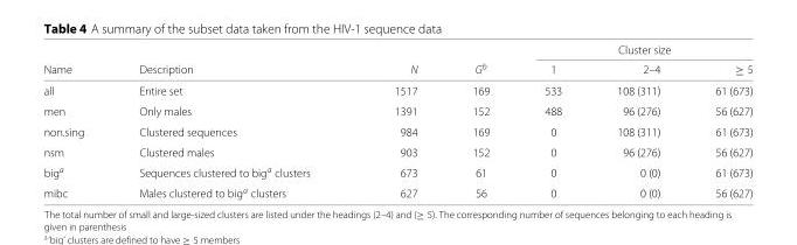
<table><thead><tr><td rowspan="2">Name</td><td rowspan="2">Description</td><td rowspan="2">N</td><td rowspan="2">G<sup>b</sup></td><td colspan="3">Cluster size</td></tr><tr><td>1</td><td>2–4</td><td>≥ 5</td></tr></thead><tbody><tr><td>all</td><td>Entire set</td><td>1517</td><td>169</td><td>533</td><td>108 (311)</td><td>61 (673)</td></tr><tr><td>men</td><td>Only males</td><td>1391</td><td>152</td><td>488</td><td>96 (276)</td><td>56 (627)</td></tr><tr><td>non.sing</td><td>Clustered sequences</td><td>984</td><td>169</td><td>0</td><td>108 (311)</td><td>61 (673)</td></tr><tr><td>nsm</td><td>Clustered males</td><td>903</td><td>152</td><td>0</td><td>96 (276)</td><td>56 (627)</td></tr><tr><td>big<sup>a</sup></td><td>Sequences clustered to big<sup>a</sup> clusters</td><td>673</td><td>61</td><td>0</td><td>0 (0)</td><td>61 (673)</td></tr><tr><td>mibc</td><td>Males clustered to big<sup>a</sup> clusters</td><td>627</td><td>56</td><td>0</td><td>0 (0)</td><td>56 (627)</td></tr></tbody></table>